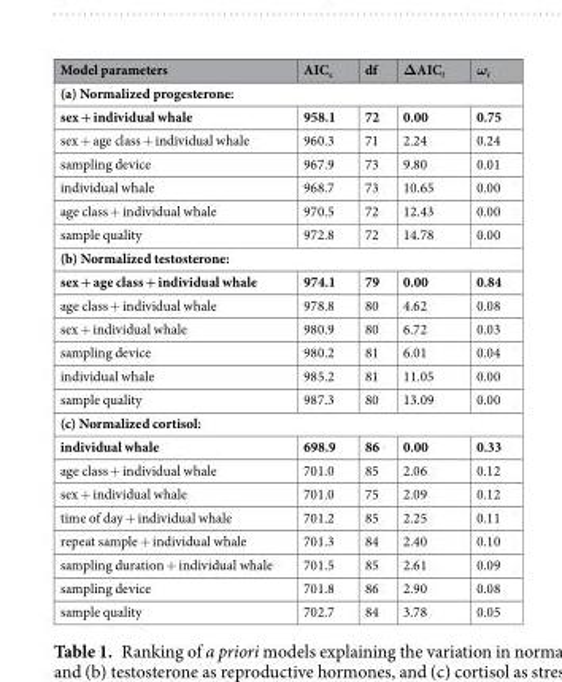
<table><thead><tr><td>Model parameters</td><td>AIC<sub>c</sub></td><td>df</td><td>ΔAIC<sub>i</sub></td><td>ω<sub>i</sub></td></tr></thead><tbody><tr><td colspan="5">(a) Normalized progesterone:</td></tr><tr><td>sex + individual whale</td><td>958.1</td><td>72</td><td>0.00</td><td>0.75</td></tr><tr><td>sex + age class + individual whale</td><td>960.3</td><td>71</td><td>2.24</td><td>0.24</td></tr><tr><td>sampling device</td><td>967.9</td><td>73</td><td>9.80</td><td>0.01</td></tr><tr><td>individual whale</td><td>968.7</td><td>73</td><td>10.65</td><td>0.00</td></tr><tr><td>age class + individual whale</td><td>970.5</td><td>72</td><td>12.43</td><td>0.00</td></tr><tr><td>sample quality</td><td>972.8</td><td>72</td><td>14.78</td><td>0.00</td></tr><tr><td colspan="5">(b) Normalized testosterone:</td></tr><tr><td>sex + age class + individual whale</td><td>974.1</td><td>79</td><td>0.00</td><td>0.84</td></tr><tr><td>age class + individual whale</td><td>978.8</td><td>80</td><td>4.62</td><td>0.08</td></tr><tr><td>sex + individual whale</td><td>980.9</td><td>80</td><td>6.72</td><td>0.03</td></tr><tr><td>sampling device</td><td>980.2</td><td>81</td><td>6.01</td><td>0.04</td></tr><tr><td>individual whale</td><td>985.2</td><td>81</td><td>11.05</td><td>0.00</td></tr><tr><td>sample quality</td><td>987.3</td><td>80</td><td>13.09</td><td>0.00</td></tr><tr><td colspan="5">(c) Normalized cortisol:</td></tr><tr><td>individual whale</td><td>698.9</td><td>86</td><td>0.00</td><td>0.33</td></tr><tr><td>age class + individual whale</td><td>701.0</td><td>85</td><td>2.06</td><td>0.12</td></tr><tr><td>sex + individual whale</td><td>701.0</td><td>75</td><td>2.09</td><td>0.12</td></tr><tr><td>time of day + individual whale</td><td>701.2</td><td>85</td><td>2.25</td><td>0.11</td></tr><tr><td>repeat sample + individual whale</td><td>701.3</td><td>84</td><td>2.40</td><td>0.10</td></tr><tr><td>sampling duration + individual whale</td><td>701.5</td><td>85</td><td>2.61</td><td>0.09</td></tr><tr><td>sampling device</td><td>701.8</td><td>86</td><td>2.90</td><td>0.08</td></tr><tr><td>sample quality</td><td>702.7</td><td>84</td><td>3.78</td><td>0.05</td></tr></tbody></table>